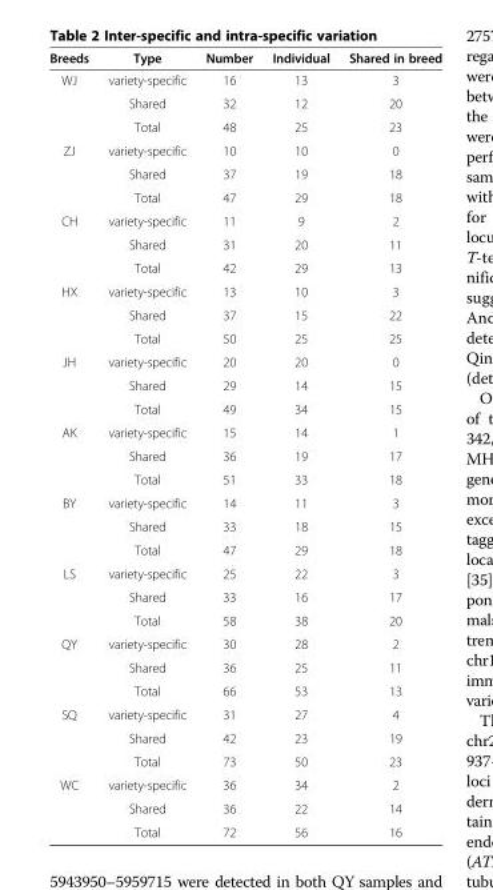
<table><thead><tr><td>Breeds</td><td>Type</td><td>Number</td><td>Individual</td><td>Shared in breed</td></tr></thead><tbody><tr><td rowspan="3">WJ</td><td>variety-specific</td><td>16</td><td>13</td><td>3</td></tr><tr><td>Shared</td><td>32</td><td>12</td><td>20</td></tr><tr><td>Total</td><td>48</td><td>25</td><td>23</td></tr><tr><td rowspan="3">ZJ</td><td>variety-specific</td><td>10</td><td>10</td><td>0</td></tr><tr><td>Shared</td><td>37</td><td>19</td><td>18</td></tr><tr><td>Total</td><td>47</td><td>29</td><td>18</td></tr><tr><td rowspan="3">CH</td><td>variety-specific</td><td>11</td><td>9</td><td>2</td></tr><tr><td>Shared</td><td>31</td><td>20</td><td>11</td></tr><tr><td>Total</td><td>42</td><td>29</td><td>13</td></tr><tr><td rowspan="3">HX</td><td>variety-specific</td><td>13</td><td>10</td><td>3</td></tr><tr><td>Shared</td><td>37</td><td>15</td><td>22</td></tr><tr><td>Total</td><td>50</td><td>25</td><td>25</td></tr><tr><td rowspan="3">JH</td><td>variety-specific</td><td>20</td><td>20</td><td>0</td></tr><tr><td>Shared</td><td>29</td><td>14</td><td>15</td></tr><tr><td>Total</td><td>49</td><td>34</td><td>15</td></tr><tr><td rowspan="3">AK</td><td>variety-specific</td><td>15</td><td>14</td><td>1</td></tr><tr><td>Shared</td><td>36</td><td>19</td><td>17</td></tr><tr><td>Total</td><td>51</td><td>33</td><td>18</td></tr><tr><td rowspan="3">BY</td><td>variety-specific</td><td>14</td><td>11</td><td>3</td></tr><tr><td>Shared</td><td>33</td><td>18</td><td>15</td></tr><tr><td>Total</td><td>47</td><td>29</td><td>18</td></tr><tr><td rowspan="3">LS</td><td>variety-specific</td><td>25</td><td>22</td><td>3</td></tr><tr><td>Shared</td><td>33</td><td>16</td><td>17</td></tr><tr><td>Total</td><td>58</td><td>38</td><td>20</td></tr><tr><td rowspan="3">QY</td><td>variety-specific</td><td>30</td><td>28</td><td>2</td></tr><tr><td>Shared</td><td>36</td><td>25</td><td>11</td></tr><tr><td>Total</td><td>66</td><td>53</td><td>13</td></tr><tr><td rowspan="3">SQ</td><td>variety-specific</td><td>31</td><td>27</td><td>4</td></tr><tr><td>Shared</td><td>42</td><td>23</td><td>19</td></tr><tr><td>Total</td><td>73</td><td>50</td><td>23</td></tr><tr><td rowspan="3">WC</td><td>variety-specific</td><td>36</td><td>34</td><td>2</td></tr><tr><td>Shared</td><td>36</td><td>22</td><td>14</td></tr><tr><td>Total</td><td>72</td><td>56</td><td>16</td></tr></tbody></table>